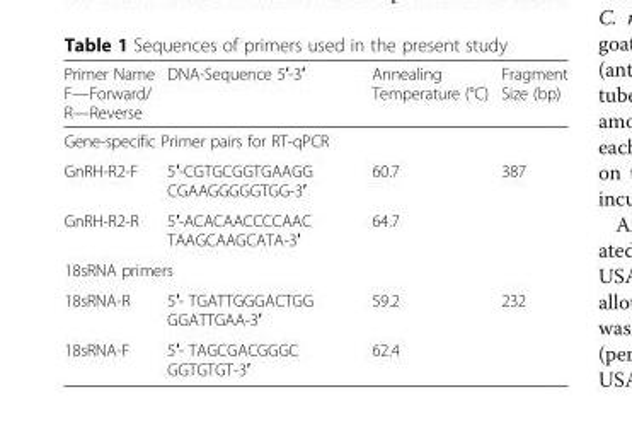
<table><thead><tr><td>Primer Name F—Forward/ R—Reverse</td><td>DNA-Sequence 5′-3′</td><td>Annealing Temperature (°C)</td><td>Fragment Size (bp)</td></tr></thead><tbody><tr><td colspan="4">Gene-specific Primer pairs for RT-qPCR</td></tr><tr><td>GnRH-R2-F</td><td>5′-CGTGCGGTGAAGG CGAAGGGGGTGG-3′</td><td>60.7</td><td rowspan="2">387</td></tr><tr><td>GnRH-R2-R</td><td>5′-ACACAACCCCAAC TAAGCAAGCATA-3′</td><td>64.7</td></tr><tr><td colspan="4">18sRNA primers</td></tr><tr><td>18sRNA-R</td><td>5′- TGATTGGGACTGG GGATTGAA-3′</td><td>59.2</td><td rowspan="2">232</td></tr><tr><td>18sRNA-F</td><td>5′- TAGCGACGGGC GGTGTGT-3′</td><td>62.4</td></tr></tbody></table>